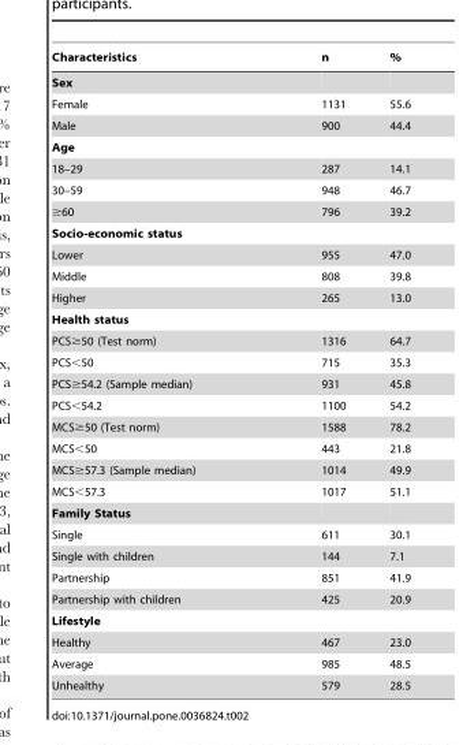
<table><thead><tr><td>Characteristics</td><td>n</td><td>%</td></tr></thead><tbody><tr><td colspan="3">Sex</td></tr><tr><td>Female</td><td>1131</td><td>55.6</td></tr><tr><td>Male</td><td>900</td><td>44.4</td></tr><tr><td colspan="3">Age</td></tr><tr><td>18–29</td><td>287</td><td>14.1</td></tr><tr><td>30–59</td><td>948</td><td>46.7</td></tr><tr><td>≥60</td><td>796</td><td>39.2</td></tr><tr><td colspan="3">Socio-economic status</td></tr><tr><td>Lower</td><td>955</td><td>47.0</td></tr><tr><td>Middle</td><td>808</td><td>39.8</td></tr><tr><td>Higher</td><td>265</td><td>13.0</td></tr><tr><td colspan="3">Health status</td></tr><tr><td>PCS≥50 (Test norm)</td><td>1316</td><td>64.7</td></tr><tr><td>PCS&lt;50</td><td>715</td><td>35.3</td></tr><tr><td>PCS≥54.2 (Sample median)</td><td>931</td><td>45.8</td></tr><tr><td>PCS&lt;54.2</td><td>1100</td><td>54.2</td></tr><tr><td>MCS≥50 (Test norm)</td><td>1588</td><td>78.2</td></tr><tr><td>MCS&lt;50</td><td>443</td><td>21.8</td></tr><tr><td>MCS≥57.3 (Sample median)</td><td>1014</td><td>49.9</td></tr><tr><td>MCS&lt;57.3</td><td>1017</td><td>51.1</td></tr><tr><td colspan="3">Family Status</td></tr><tr><td>Single</td><td>611</td><td>30.1</td></tr><tr><td>Single with children</td><td>144</td><td>7.1</td></tr><tr><td>Partnership</td><td>851</td><td>41.9</td></tr><tr><td>Partnership with children</td><td>425</td><td>20.9</td></tr><tr><td colspan="3">Lifestyle</td></tr><tr><td>Healthy</td><td>467</td><td>23.0</td></tr><tr><td>Average</td><td>985</td><td>48.5</td></tr><tr><td>Unhealthy</td><td>579</td><td>28.5</td></tr></tbody></table>